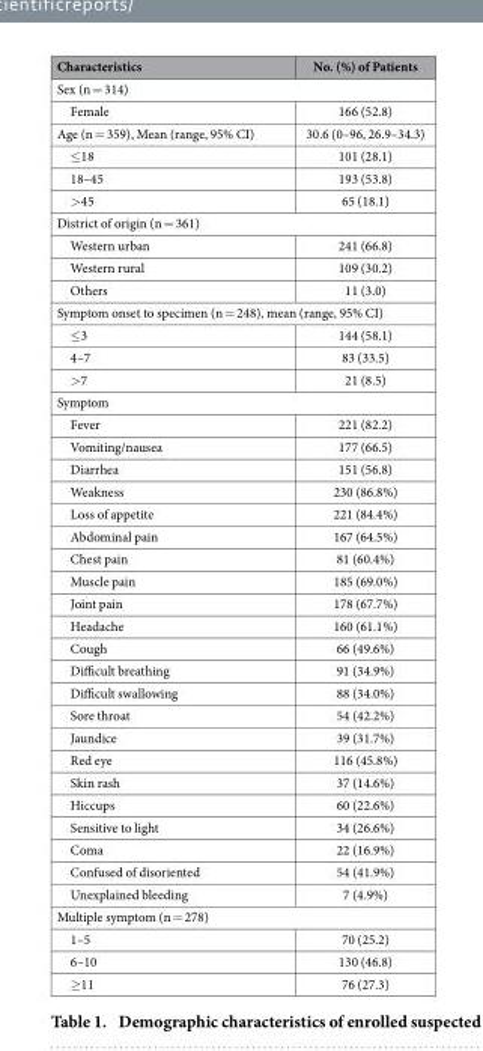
<table><thead><tr><td>Characteristics</td><td>No. (%) of Patients</td></tr></thead><tbody><tr><td colspan="2">Sex (n = 314)</td></tr><tr><td>Female</td><td>166 (52.8)</td></tr><tr><td>Age (n = 359), Mean (range, 95% CI)</td><td>30.6 (0–96, 26.9–34.3)</td></tr><tr><td>≤ 18</td><td>101 (28.1)</td></tr><tr><td>18–45</td><td>193 (53.8)</td></tr><tr><td>&gt; 45</td><td>65 (18.1)</td></tr><tr><td colspan="2">District of origin (n = 361)</td></tr><tr><td>Western urban</td><td>241 (66.8)</td></tr><tr><td>Western rural</td><td>109 (30.2)</td></tr><tr><td>Others</td><td>11 (3.0)</td></tr><tr><td colspan="2">Symptom onset to specimen (n = 248), mean (range, 95% CI)</td></tr><tr><td>≤ 3</td><td>144 (58.1)</td></tr><tr><td>4–7</td><td>83 (33.5)</td></tr><tr><td>&gt; 7</td><td>21 (8.5)</td></tr><tr><td colspan="2">Symptom</td></tr><tr><td>Fever</td><td>221 (82.2)</td></tr><tr><td>Vomiting/nausea</td><td>177 (66.5)</td></tr><tr><td>Diarrhea</td><td>151 (56.8)</td></tr><tr><td>Weakness</td><td>230 (86.8%)</td></tr><tr><td>Loss of appetite</td><td>221 (84.4%)</td></tr><tr><td>Abdominal pain</td><td>167 (64.5%)</td></tr><tr><td>Chest pain</td><td>81 (60.4%)</td></tr><tr><td>Muscle pain</td><td>185 (69.0%)</td></tr><tr><td>Joint pain</td><td>178 (67.7%)</td></tr><tr><td>Headache</td><td>160 (61.1%)</td></tr><tr><td>Cough</td><td>66 (49.6%)</td></tr><tr><td>Difficult breathing</td><td>91 (34.9%)</td></tr><tr><td>Difficult swallowing</td><td>88 (34.0%)</td></tr><tr><td>Sore throat</td><td>54 (42.2%)</td></tr><tr><td>Jaundice</td><td>39 (31.7%)</td></tr><tr><td>Red eye</td><td>116 (45.8%)</td></tr><tr><td>Skin rash</td><td>37 (14.6%)</td></tr><tr><td>Hiccups</td><td>60 (22.6%)</td></tr><tr><td>Sensitive to light</td><td>34 (26.6%)</td></tr><tr><td>Coma</td><td>22 (16.9%)</td></tr><tr><td>Confused of disoriented</td><td>54 (41.9%)</td></tr><tr><td>Unexplained bleeding</td><td>7 (4.9%)</td></tr><tr><td colspan="2">Multiple symptom (n = 278)</td></tr><tr><td>1–5</td><td>70 (25.2)</td></tr><tr><td>6–10</td><td>130 (46.8)</td></tr><tr><td>≥ 11</td><td>76 (27.3)</td></tr></tbody></table>